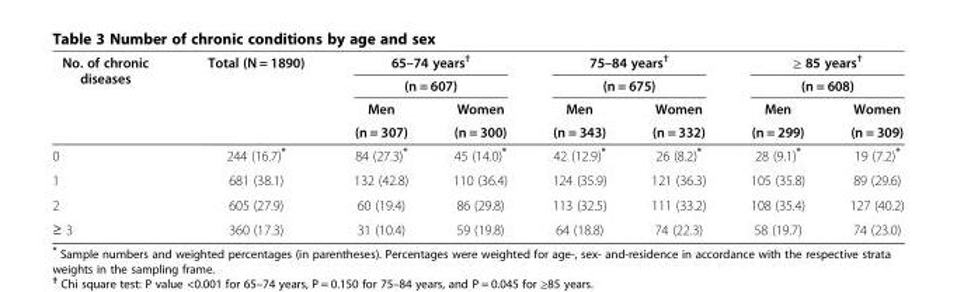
<table><thead><tr><td rowspan="4">No. of chronic diseases</td><td rowspan="4">Total (N = 1890)</td><td rowspan="2" colspan="2">65–74 years<sup>†</sup> (n = 607)</td><td rowspan="2" colspan="2">75–84 years<sup>†</sup> (n = 675)</td><td rowspan="2" colspan="2">≥ 85 years<sup>†</sup> (n = 608)</td></tr><tr></tr><tr><td rowspan="2">Men (n = 307)</td><td rowspan="2">Women (n = 300)</td><td rowspan="2">Men (n = 343)</td><td rowspan="2">Women (n = 332)</td><td rowspan="2">Men (n = 299)</td><td rowspan="2">Women (n = 309)</td></tr><tr></tr></thead><tbody><tr><td>0</td><td>244 (16.7)*</td><td>84 (27.3)*</td><td>45 (14.0)*</td><td>42 (12.9)*</td><td>26 (8.2)*</td><td>28 (9.1)*</td><td>19 (7.2)*</td></tr><tr><td>1</td><td>681 (38.1)</td><td>132 (42.8)</td><td>110 (36.4)</td><td>124 (35.9)</td><td>121 (36.3)</td><td>105 (35.8)</td><td>89 (29.6)</td></tr><tr><td>2</td><td>605 (27.9)</td><td>60 (19.4)</td><td>86 (29.8)</td><td>113 (32.5)</td><td>111 (33.2)</td><td>108 (35.4)</td><td>127 (40.2)</td></tr><tr><td>≥ 3</td><td>360 (17.3)</td><td>31 (10.4)</td><td>59 (19.8)</td><td>64 (18.8)</td><td>74 (22.3)</td><td>58 (19.7)</td><td>74 (23.0)</td></tr></tbody></table>